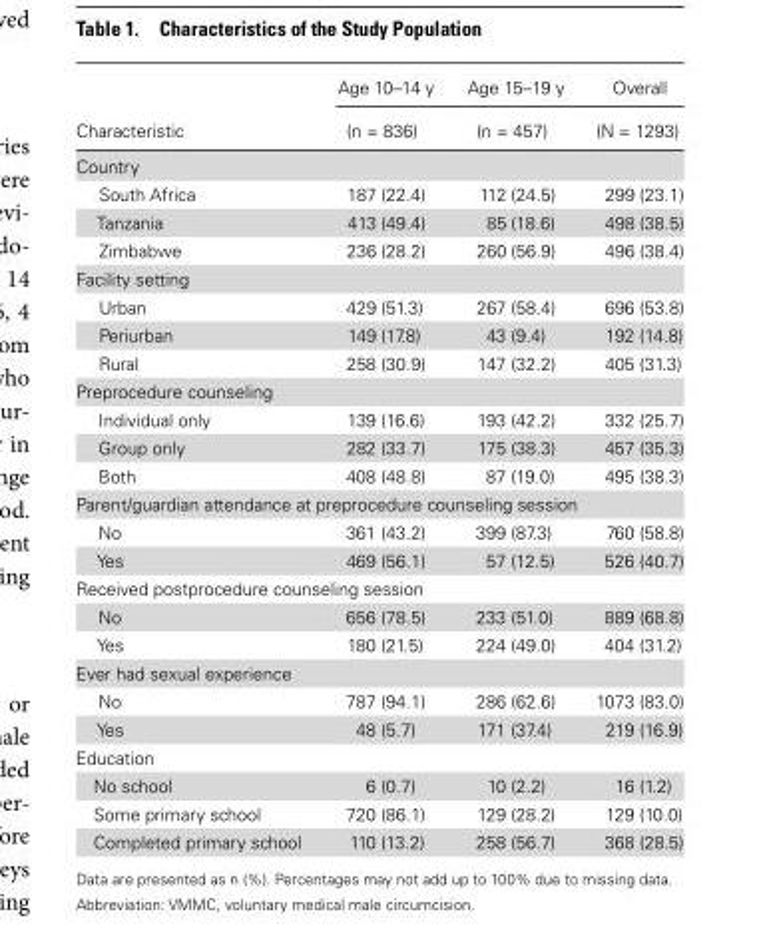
<table><thead><tr><td rowspan="2">Characteristic</td><td rowspan="2">Age 10–14 y (n = 836)</td><td rowspan="2">Age 15–19 y (n = 457)</td><td rowspan="2">Overall (N = 1293)</td></tr><tr></tr></thead><tbody><tr><td colspan="4">Country</td></tr><tr><td>South Africa</td><td>187 (22.4)</td><td>112 (24.5)</td><td>299 (23.1)</td></tr><tr><td>Tanzania</td><td>413 (49.4)</td><td>85 (18.6)</td><td>498 (38.5)</td></tr><tr><td>Zimbabwe</td><td>236 (28.2)</td><td>260 (56.9)</td><td>496 (38.4)</td></tr><tr><td colspan="4">Facility setting</td></tr><tr><td>Urban</td><td>429 (51.3)</td><td>267 (58.4)</td><td>696 (53.8)</td></tr><tr><td>Periurban</td><td>149 (17.8)</td><td>43 (9.4)</td><td>192 (14.8)</td></tr><tr><td>Rural</td><td>258 (30.9)</td><td>147 (32.2)</td><td>405 (31.3)</td></tr><tr><td colspan="4">Preprocedure counseling</td></tr><tr><td>Individual only</td><td>139 (16.6)</td><td>193 (42.2)</td><td>332 (25.7)</td></tr><tr><td>Group only</td><td>282 (33.7)</td><td>175 (38.3)</td><td>457 (35.3)</td></tr><tr><td>Both</td><td>408 (48.8)</td><td>87 (19.0)</td><td>495 (38.3)</td></tr><tr><td colspan="4">Parent/guardian attendance at preprocedure counseling session</td></tr><tr><td>No</td><td>361 (43.2)</td><td>399 (87.3)</td><td>760 (58.8)</td></tr><tr><td>Yes</td><td>469 (56.1)</td><td>57 (12.5)</td><td>526 (40.7)</td></tr><tr><td colspan="4">Received postprocedure counseling session</td></tr><tr><td>No</td><td>656 (78.5)</td><td>233 (51.0)</td><td>889 (68.8)</td></tr><tr><td>Yes</td><td>180 (21.5)</td><td>224 (49.0)</td><td>404 (31.2)</td></tr><tr><td colspan="4">Ever had sexual experience</td></tr><tr><td>No</td><td>787 (94.1)</td><td>286 (62.6)</td><td>1073 (83.0)</td></tr><tr><td>Yes</td><td>48 (5.7)</td><td>171 (37.4)</td><td>219 (16.9)</td></tr><tr><td colspan="4">Education</td></tr><tr><td>No school</td><td>6 (0.7)</td><td>10 (2.2)</td><td>16 (1.2)</td></tr><tr><td>Some primary school</td><td>720 (86.1)</td><td>129 (28.2)</td><td>129 (10.0)</td></tr><tr><td>Completed primary school</td><td>110 (13.2)</td><td>258 (56.7)</td><td>368 (28.5)</td></tr></tbody></table>